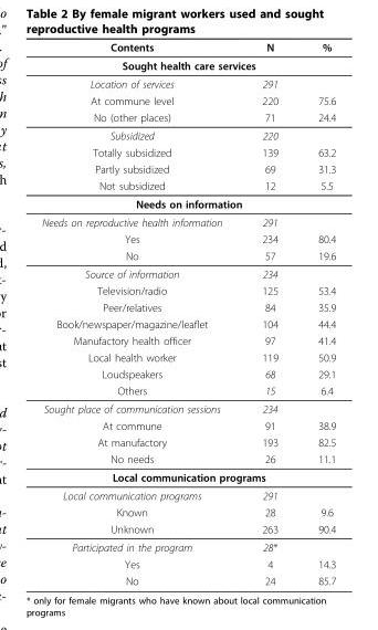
<table><thead><tr><td>Contents</td><td>N</td><td>%</td></tr></thead><tbody><tr><td colspan="3">Sought health care services</td></tr><tr><td>Location of services</td><td>291</td><td></td></tr><tr><td>At commune level</td><td>220</td><td>75.6</td></tr><tr><td>No (other places)</td><td>71</td><td>24.4</td></tr><tr><td>Subsidized</td><td>220</td><td></td></tr><tr><td>Totally subsidized</td><td>139</td><td>63.2</td></tr><tr><td>Partly subsidized</td><td>69</td><td>31.3</td></tr><tr><td>Not subsidized</td><td>12</td><td>5.5</td></tr><tr><td colspan="3">Needs on information</td></tr><tr><td>Needs on reproductive health information</td><td>291</td><td></td></tr><tr><td>Yes</td><td>234</td><td>80.4</td></tr><tr><td>No</td><td>57</td><td>19.6</td></tr><tr><td>Source of information</td><td>234</td><td></td></tr><tr><td>Television/radio</td><td>125</td><td>53.4</td></tr><tr><td>Peer/relatives</td><td>84</td><td>35.9</td></tr><tr><td>Book/newspaper/magazine/leaflet</td><td>104</td><td>44.4</td></tr><tr><td>Manufactory health officer</td><td>97</td><td>41.4</td></tr><tr><td>Local health worker</td><td>119</td><td>50.9</td></tr><tr><td>Loudspeakers</td><td>68</td><td>29.1</td></tr><tr><td>Others</td><td>15</td><td>6.4</td></tr><tr><td>Sought place of communication sessions</td><td>234</td><td></td></tr><tr><td>At commune</td><td>91</td><td>38.9</td></tr><tr><td>At manufactory</td><td>193</td><td>82.5</td></tr><tr><td>No needs</td><td>26</td><td>11.1</td></tr><tr><td colspan="3">Local communication programs</td></tr><tr><td>Local communication programs</td><td>291</td><td></td></tr><tr><td>Known</td><td>28</td><td>9.6</td></tr><tr><td>Unknown</td><td>263</td><td>90.4</td></tr><tr><td>Participated in the program</td><td>28*</td><td></td></tr><tr><td>Yes</td><td>4</td><td>14.3</td></tr><tr><td>No</td><td>24</td><td>85.7</td></tr></tbody></table>